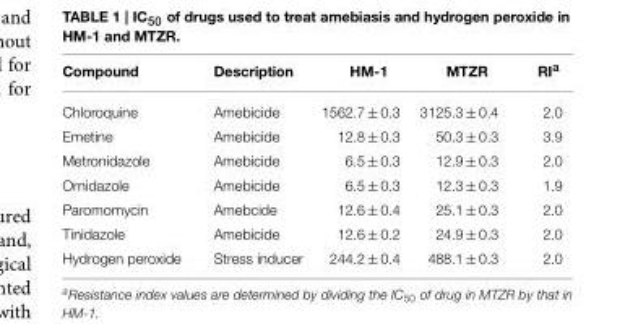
<table><thead><tr><td>Compound</td><td>Description</td><td>HM-1</td><td>MTZR</td><td>RI<sup>a</sup></td></tr></thead><tbody><tr><td>Chloroquine</td><td>Amebicide</td><td>1562.7 ± 0.3</td><td>3125.3 ± 0.4</td><td>2.0</td></tr><tr><td>Emetine</td><td>Amebicide</td><td>12.8 ± 0.3</td><td>50.3 ± 0.3</td><td>3.9</td></tr><tr><td>Metronidazole</td><td>Amebicide</td><td>6.5 ± 0.3</td><td>12.9 ± 0.3</td><td>2.0</td></tr><tr><td>Ornidazole</td><td>Amebicide</td><td>6.5 ± 0.3</td><td>12.3 ± 0.3</td><td>1.9</td></tr><tr><td>Paromomycin</td><td>Amebcide</td><td>12.6 ± 0.4</td><td>25.1 ± 0.3</td><td>2.0</td></tr><tr><td>Tinidazole</td><td>Amebicide</td><td>12.6 ± 0.2</td><td>24.9 ± 0.3</td><td>2.0</td></tr><tr><td>Hydrogen peroxide</td><td>Stress inducer</td><td>244.2 ± 0.4</td><td>488.1 ± 0.3</td><td>2.0</td></tr></tbody></table>